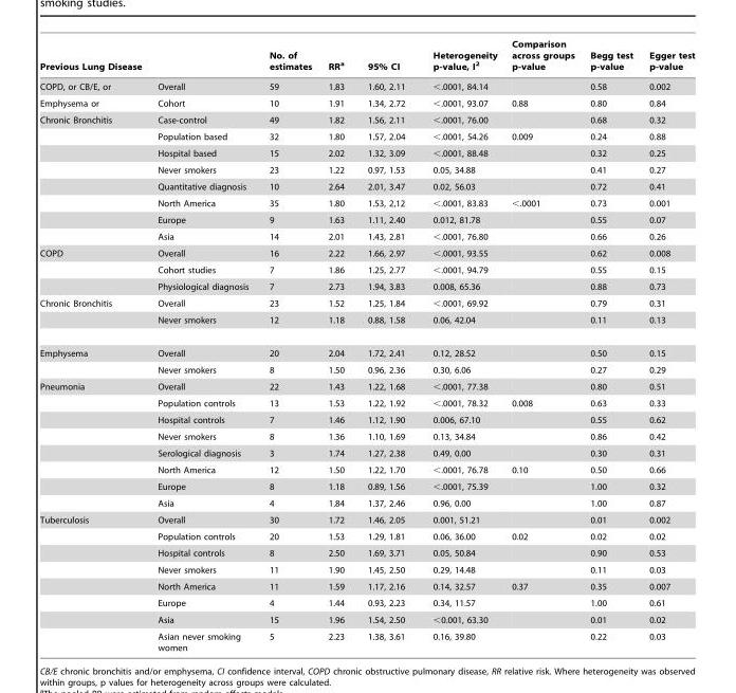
<table><thead><tr><td>Previous Lung Disease</td><td></td><td>No. of estimates</td><td>RR<sup>a</sup></td><td>95% CI</td><td>Heterogeneity p-value, I<sup>2</sup></td><td>Comparison across groups p-value</td><td>Begg test p-value</td><td>Egger test p-value</td></tr></thead><tbody><tr><td>COPD, or CB/E, or</td><td>Overall</td><td>59</td><td>1.83</td><td>1.60, 2.11</td><td>&lt;.0001, 84.14</td><td></td><td>0.58</td><td>0.002</td></tr><tr><td>Emphysema or</td><td>Cohort</td><td>10</td><td>1.91</td><td>1.34, 2.72</td><td>&lt;.0001, 93.07</td><td>0.88</td><td>0.80</td><td>0.84</td></tr><tr><td rowspan="8">Chronic Bronchitis</td><td>Case-control</td><td>49</td><td>1.82</td><td>1.56, 2.11</td><td>&lt;.0001, 76.00</td><td></td><td>0.68</td><td>0.32</td></tr><tr><td>Population based</td><td>32</td><td>1.80</td><td>1.57, 2.04</td><td>&lt;.0001, 54.26</td><td>0.009</td><td>0.24</td><td>0.88</td></tr><tr><td>Hospital based</td><td>15</td><td>2.02</td><td>1.32, 3.09</td><td>&lt;.0001, 88.48</td><td></td><td>0.32</td><td>0.25</td></tr><tr><td>Never smokers</td><td>23</td><td>1.22</td><td>0.97, 1.53</td><td>0.05, 34.88</td><td></td><td>0.41</td><td>0.27</td></tr><tr><td>Quantitative diagnosis</td><td>10</td><td>2.64</td><td>2.01, 3.47</td><td>0.02, 56.03</td><td></td><td>0.72</td><td>0.41</td></tr><tr><td>North America</td><td>35</td><td>1.80</td><td>1.53, 2,12</td><td>&lt;.0001, 83.83</td><td>&lt;.0001</td><td>0.73</td><td>0.001</td></tr><tr><td>Europe</td><td>9</td><td>1.63</td><td>1.11, 2.40</td><td>0.012, 81.78</td><td></td><td>0.55</td><td>0.07</td></tr><tr><td>Asia</td><td>14</td><td>2.01</td><td>1.43, 2.81</td><td>&lt;.0001, 76.80</td><td></td><td>0.66</td><td>0.26</td></tr><tr><td rowspan="3">COPD</td><td>Overall</td><td>16</td><td>2.22</td><td>1.66, 2.97</td><td>&lt;.0001, 93.55</td><td></td><td>0.62</td><td>0.008</td></tr><tr><td>Cohort studies</td><td>7</td><td>1.86</td><td>1.25, 2.77</td><td>&lt;.0001, 94.79</td><td></td><td>0.55</td><td>0.15</td></tr><tr><td>Physiological diagnosis</td><td>7</td><td>2.73</td><td>1.94, 3.83</td><td>0.008, 65.36</td><td></td><td>0.88</td><td>0.73</td></tr><tr><td rowspan="2">Chronic Bronchitis</td><td>Overall</td><td>23</td><td>1.52</td><td>1.25, 1.84</td><td>&lt;.0001, 69.92</td><td></td><td>0.79</td><td>0.31</td></tr><tr><td>Never smokers</td><td>12</td><td>1.18</td><td>0.88, 1.58</td><td>0.06, 42.04</td><td></td><td>0.11</td><td>0.13</td></tr><tr><td rowspan="2">Emphysema</td><td>Overall</td><td>20</td><td>2.04</td><td>1.72, 2.41</td><td>0.12, 28.52</td><td></td><td>0.50</td><td>0.15</td></tr><tr><td>Never smokers</td><td>8</td><td>1.50</td><td>0.96, 2.36</td><td>0.30, 6.06</td><td></td><td>0.27</td><td>0.29</td></tr><tr><td rowspan="8">Pneumonia</td><td>Overall</td><td>22</td><td>1.43</td><td>1.22, 1.68</td><td>&lt;.0001, 77.38</td><td></td><td>0.80</td><td>0.51</td></tr><tr><td>Population controls</td><td>13</td><td>1.53</td><td>1.22, 1.92</td><td>&lt;.0001, 78.32</td><td>0.008</td><td>0.63</td><td>0.33</td></tr><tr><td>Hospital controls</td><td>7</td><td>1.46</td><td>1.12, 1.90</td><td>0.006, 67.10</td><td></td><td>0.55</td><td>0.62</td></tr><tr><td>Never smokers</td><td>8</td><td>1.36</td><td>1.10, 1.69</td><td>0.13, 34.84</td><td></td><td>0.86</td><td>0.42</td></tr><tr><td>Serological diagnosis</td><td>3</td><td>1.74</td><td>1.27, 2.38</td><td>0.49, 0.00</td><td></td><td>0.30</td><td>0.31</td></tr><tr><td>North America</td><td>12</td><td>1.50</td><td>1.22, 1.70</td><td>&lt;.0001, 76.78</td><td>0.10</td><td>0.50</td><td>0.66</td></tr><tr><td>Europe</td><td>8</td><td>1.18</td><td>0.89, 1.56</td><td>&lt;.0001, 75.39</td><td></td><td>1.00</td><td>0.32</td></tr><tr><td>Asia</td><td>4</td><td>1.84</td><td>1.37, 2.46</td><td>0.96, 0.00</td><td></td><td>1.00</td><td>0.87</td></tr><tr><td rowspan="8">Tuberculosis</td><td>Overall</td><td>30</td><td>1.72</td><td>1.46, 2.05</td><td>0.001, 51.21</td><td></td><td>0.01</td><td>0.002</td></tr><tr><td>Population controls</td><td>20</td><td>1.53</td><td>1.29, 1.81</td><td>0.06, 36.00</td><td>0.02</td><td>0.02</td><td>0.02</td></tr><tr><td>Hospital controls</td><td>8</td><td>2.50</td><td>1.69, 3.71</td><td>0.05, 50.84</td><td></td><td>0.90</td><td>0.53</td></tr><tr><td>Never smokers</td><td>11</td><td>1.90</td><td>1.45, 2.50</td><td>0.29, 14.48</td><td></td><td>0.11</td><td>0.03</td></tr><tr><td>North America</td><td>11</td><td>1.59</td><td>1.17, 2.16</td><td>0.14, 32.57</td><td>0.37</td><td>0.35</td><td>0.007</td></tr><tr><td>Europe</td><td>4</td><td>1.44</td><td>0.93, 2.23</td><td>0.34, 11.57</td><td></td><td>1.00</td><td>0.61</td></tr><tr><td>Asia</td><td>15</td><td>1.96</td><td>1.54, 2.50</td><td>&lt;0.001, 63.30</td><td></td><td>0.01</td><td>0.02</td></tr><tr><td>Asian never smoking women</td><td>5</td><td>2.23</td><td>1.38, 3.61</td><td>0.16, 39.80</td><td></td><td>0.22</td><td>0.03</td></tr></tbody></table>